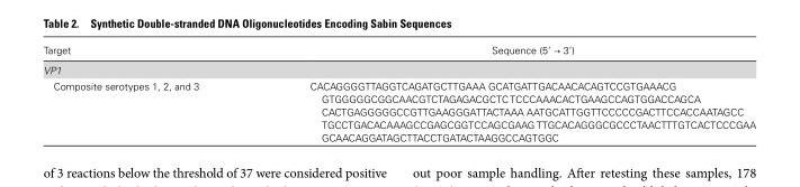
<table><thead><tr><td>Target</td><td>Sequence (5’ → 3’)</td></tr></thead><tbody><tr><td colspan="2">VP1</td></tr><tr><td>Composite serotypes 1, 2, and 3</td><td>CACAGGGGTTAGGTCAGATGCTTGAAA GCATGATTGACAACACAGTCCGTGAAACG GTGGGGGCGGCAACGTCTAGAGACGCTC TCCCAAACACTGAAGCCAGTGGACCAGCA CACTGAGGGGGCCGTTGAAGGGATTACTAAA AATGCATTGGTTCCCCCGACTTCCACCAATAGCC TGCCTGACACAAAGCCGAGCGGTCCAGCGAAG TTGCACAGGGCGCCCTAACTTTGTCACTCCCGAA GCAACAGGATAGCTTACCTGATACTAAGGCCAGTGGC</td></tr></tbody></table>